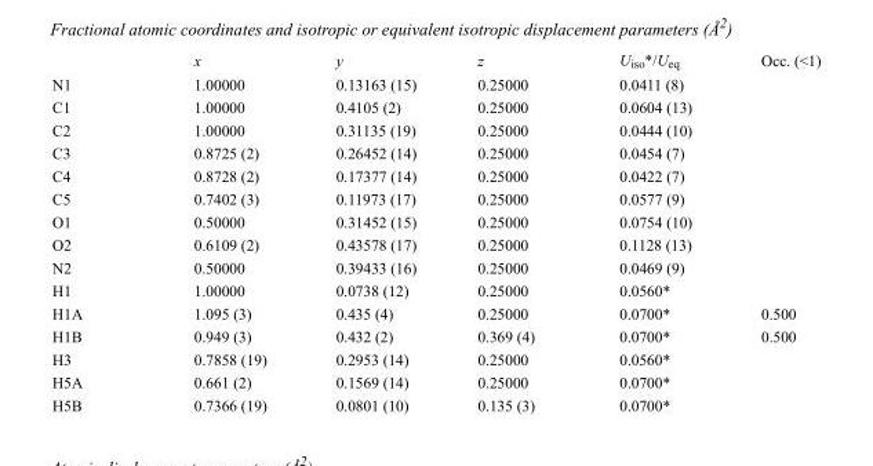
<table><thead><tr><td></td><td>x</td><td>y</td><td>z</td><td>U<sub>iso</sub>*/U<sub>eq</sub></td><td>Occ. (&lt;1)</td></tr></thead><tbody><tr><td>N1</td><td>1.00000</td><td>0.13163 (15)</td><td>0.25000</td><td>0.0411 (8)</td><td></td></tr><tr><td>C1</td><td>1.00000</td><td>0.4105 (2)</td><td>0.25000</td><td>0.0604 (13)</td><td></td></tr><tr><td>C2</td><td>1.00000</td><td>0.31135 (19)</td><td>0.25000</td><td>0.0444 (10)</td><td></td></tr><tr><td>C3</td><td>0.8725 (2)</td><td>0.26452 (14)</td><td>0.25000</td><td>0.0454 (7)</td><td></td></tr><tr><td>C4</td><td>0.8728 (2)</td><td>0.17377 (14)</td><td>0.25000</td><td>0.0422 (7)</td><td></td></tr><tr><td>C5</td><td>0.7402 (3)</td><td>0.11973 (17)</td><td>0.25000</td><td>0.0577 (9)</td><td></td></tr><tr><td>O1</td><td>0.50000</td><td>0.31452 (15)</td><td>0.25000</td><td>0.0754 (10)</td><td></td></tr><tr><td>O2</td><td>0.6109 (2)</td><td>0.43578 (17)</td><td>0.25000</td><td>0.1128 (13)</td><td></td></tr><tr><td>N2</td><td>0.50000</td><td>0.39433 (16)</td><td>0.25000</td><td>0.0469 (9)</td><td></td></tr><tr><td>H1</td><td>1.00000</td><td>0.0738 (12)</td><td>0.25000</td><td>0.0560*</td><td></td></tr><tr><td>H1A</td><td>1.095 (3)</td><td>0.435 (4)</td><td>0.25000</td><td>0.0700*</td><td>0.500</td></tr><tr><td>H1B</td><td>0.949 (3)</td><td>0.432 (2)</td><td>0.369 (4)</td><td>0.0700*</td><td>0.500</td></tr><tr><td>H3</td><td>0.7858 (19)</td><td>0.2953 (14)</td><td>0.25000</td><td>0.0560*</td><td></td></tr><tr><td>H5A</td><td>0.661 (2)</td><td>0.1569 (14)</td><td>0.25000</td><td>0.0700*</td><td></td></tr><tr><td>H5B</td><td>0.7366 (19)</td><td>0.0801 (10)</td><td>0.135 (3)</td><td>0.0700*</td><td></td></tr></tbody></table>